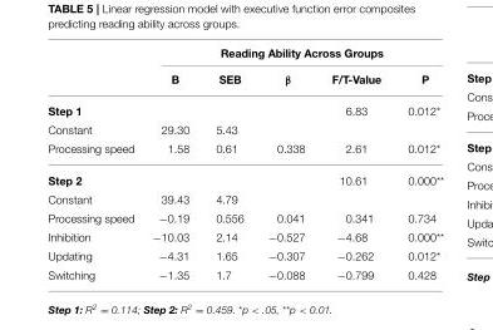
<table><thead><tr><td rowspan="2"></td><td colspan="5">Reading Ability Across Groups</td></tr><tr><td>B</td><td>SEB</td><td>β</td><td>F/T-Value</td><td>P</td></tr></thead><tbody><tr><td>Step 1</td><td></td><td></td><td></td><td>6.83</td><td>0.012*</td></tr><tr><td>Constant</td><td>29.30</td><td>5.43</td><td></td><td></td><td></td></tr><tr><td>Processing speed</td><td>1.58</td><td>0.61</td><td>0.338</td><td>2.61</td><td>0.012*</td></tr><tr><td>Step 2</td><td></td><td></td><td></td><td>10.61</td><td>0.000**</td></tr><tr><td>Constant</td><td>39.43</td><td>4.79</td><td></td><td></td><td></td></tr><tr><td>Processing speed</td><td>−0.19</td><td>0.556</td><td>0.041</td><td>0.341</td><td>0.734</td></tr><tr><td>Inhibition</td><td>−10.03</td><td>2.14</td><td>−0.527</td><td>−4.68</td><td>0.000**</td></tr><tr><td>Updating</td><td>−4.31</td><td>1.65</td><td>−0.307</td><td>−0.262</td><td>0.012*</td></tr><tr><td>Switching</td><td>−1.35</td><td>1.7</td><td>−0.088</td><td>−0.799</td><td>0.428</td></tr></tbody></table>